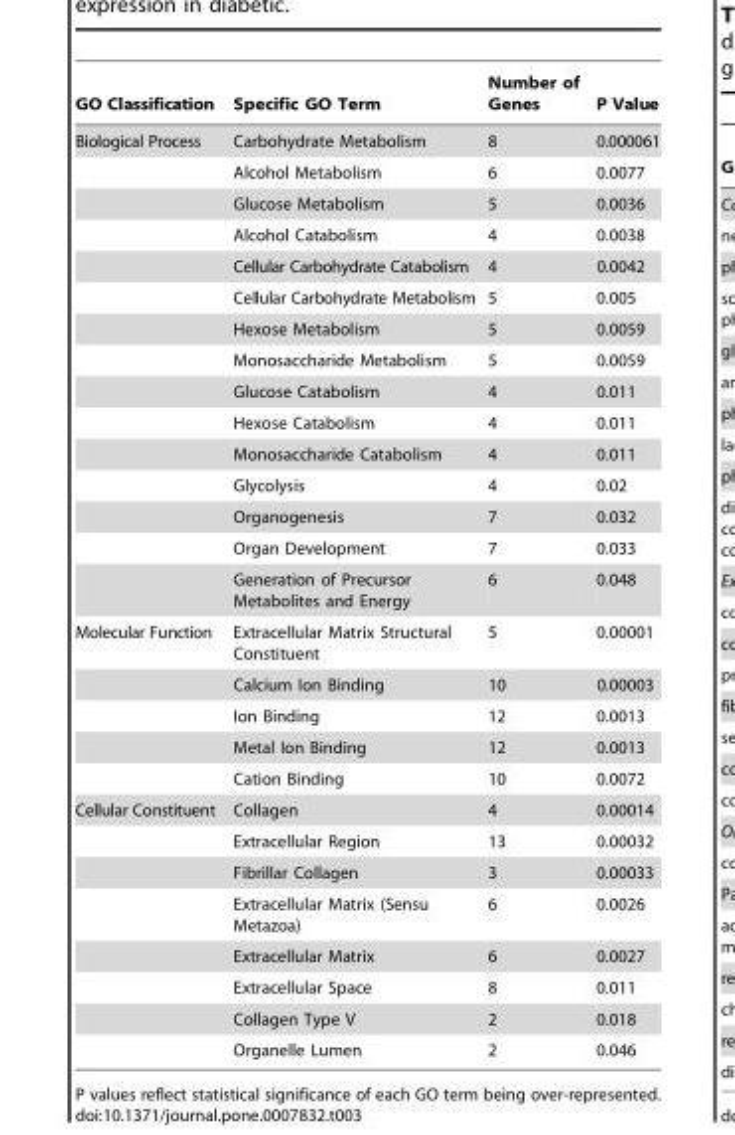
<table><thead><tr><td>GO Classification</td><td>Specific GO Term</td><td>Number of Genes</td><td>P Value</td></tr></thead><tbody><tr><td rowspan="15">Biological Process</td><td>Carbohydrate Metabolism</td><td>8</td><td>0.000061</td></tr><tr><td>Alcohol Metabolism</td><td>6</td><td>0.0077</td></tr><tr><td>Glucose Metabolism</td><td>5</td><td>0.0036</td></tr><tr><td>Alcohol Catabolism</td><td>4</td><td>0.0038</td></tr><tr><td>Cellular Carbohydrate Catabolism</td><td>4</td><td>0.0042</td></tr><tr><td>Cellular Carbohydrate Metabolism</td><td>5</td><td>0.005</td></tr><tr><td>Hexose Metabolism</td><td>5</td><td>0.0059</td></tr><tr><td>Monosaccharide Metabolism</td><td>5</td><td>0.0059</td></tr><tr><td>Glucose Catabolism</td><td>4</td><td>0.011</td></tr><tr><td>Hexose Catabolism</td><td>4</td><td>0.011</td></tr><tr><td>Monosaccharide Catabolism</td><td>4</td><td>0.011</td></tr><tr><td>Glycolysis</td><td>4</td><td>0.02</td></tr><tr><td>Organogenesis</td><td>7</td><td>0.032</td></tr><tr><td>Organ Development</td><td>7</td><td>0.033</td></tr><tr><td>Generation of Precursor Metabolites and Energy</td><td>6</td><td>0.048</td></tr><tr><td rowspan="5">Molecular Function</td><td>Extracellular Matrix Structural Constituent</td><td>5</td><td>0.00001</td></tr><tr><td>Calcium Ion Binding</td><td>10</td><td>0.00003</td></tr><tr><td>Ion Binding</td><td>12</td><td>0.0013</td></tr><tr><td>Metal Ion Binding</td><td>12</td><td>0.0013</td></tr><tr><td>Cation Binding</td><td>10</td><td>0.0072</td></tr><tr><td rowspan="8">Cellular Constituent</td><td>Collagen</td><td>4</td><td>0.00014</td></tr><tr><td>Extracellular Region</td><td>13</td><td>0.00032</td></tr><tr><td>Fibrillar Collagen</td><td>3</td><td>0.00033</td></tr><tr><td>Extracellular Matrix (Sensu Metazoa)</td><td>6</td><td>0.0026</td></tr><tr><td>Extracellular Matrix</td><td>6</td><td>0.0027</td></tr><tr><td>Extracellular Space</td><td>8</td><td>0.011</td></tr><tr><td>Collagen Type V</td><td>2</td><td>0.018</td></tr><tr><td>Organelle Lumen</td><td>2</td><td>0.046</td></tr></tbody></table>